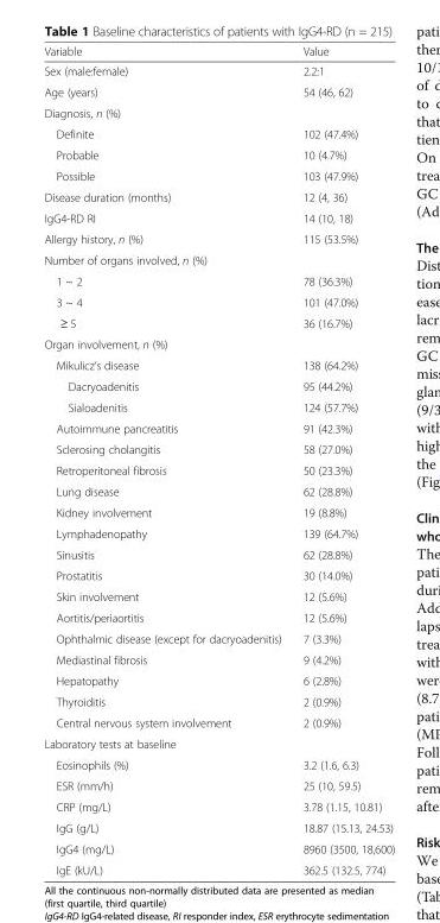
<table><thead><tr><td>Variable</td><td>Value</td></tr></thead><tbody><tr><td>Sex (male:female)</td><td>2.2:1</td></tr><tr><td>Age (years)</td><td>54 (46, 62)</td></tr><tr><td colspan="2">Diagnosis, n (%)</td></tr><tr><td>Definite</td><td>102 (47.4%)</td></tr><tr><td>Probable</td><td>10 (4.7%)</td></tr><tr><td>Possible</td><td>103 (47.9%)</td></tr><tr><td>Disease duration (months)</td><td>12 (4, 36)</td></tr><tr><td>IgG4-RD RI</td><td>14 (10, 18)</td></tr><tr><td>Allergy history, n (%)</td><td>115 (53.5%)</td></tr><tr><td colspan="2">Number of organs involved, n (%)</td></tr><tr><td>1 ~ 2</td><td>78 (36.3%)</td></tr><tr><td>3 ~ 4</td><td>101 (47.0%)</td></tr><tr><td>≥ 5</td><td>36 (16.7%)</td></tr><tr><td colspan="2">Organ involvement, n (%)</td></tr><tr><td>Mikulicz’s disease</td><td>138 (64.2%)</td></tr><tr><td>Dacryoadenitis</td><td>95 (44.2%)</td></tr><tr><td>Sialoadenitis</td><td>124 (57.7%)</td></tr><tr><td>Autoimmune pancreatitis</td><td>91 (42.3%)</td></tr><tr><td>Sclerosing cholangitis</td><td>58 (27.0%)</td></tr><tr><td>Retroperitoneal fibrosis</td><td>50 (23.3%)</td></tr><tr><td>Lung disease</td><td>62 (28.8%)</td></tr><tr><td>Kidney involvement</td><td>19 (8.8%)</td></tr><tr><td>Lymphadenopathy</td><td>139 (64.7%)</td></tr><tr><td>Sinusitis</td><td>62 (28.8%)</td></tr><tr><td>Prostatitis</td><td>30 (14.0%)</td></tr><tr><td>Skin involvement</td><td>12 (5.6%)</td></tr><tr><td>Aortitis/periaortitis</td><td>12 (5.6%)</td></tr><tr><td>Ophthalmic disease (except for dacryoadenitis)</td><td>7 (3.3%)</td></tr><tr><td>Mediastinal fibrosis</td><td>9 (4.2%)</td></tr><tr><td>Hepatopathy</td><td>6 (2.8%)</td></tr><tr><td>Thyroiditis</td><td>2 (0.9%)</td></tr><tr><td>Central nervous system involvement</td><td>2 (0.9%)</td></tr><tr><td colspan="2">Laboratory tests at baseline</td></tr><tr><td>Eosinophils (%)</td><td>3.2 (1.6, 6.3)</td></tr><tr><td>ESR (mm/h)</td><td>25 (10, 59.5)</td></tr><tr><td>CRP (mg/L)</td><td>3.78 (1.15, 10.81)</td></tr><tr><td>IgG (g/L)</td><td>18.87 (15.13, 24.53)</td></tr><tr><td>IgG4 (mg/L)</td><td>8960 (3500, 18,600)</td></tr><tr><td>IgE (kU/L)</td><td>362.5 (132.5, 774)</td></tr></tbody></table>